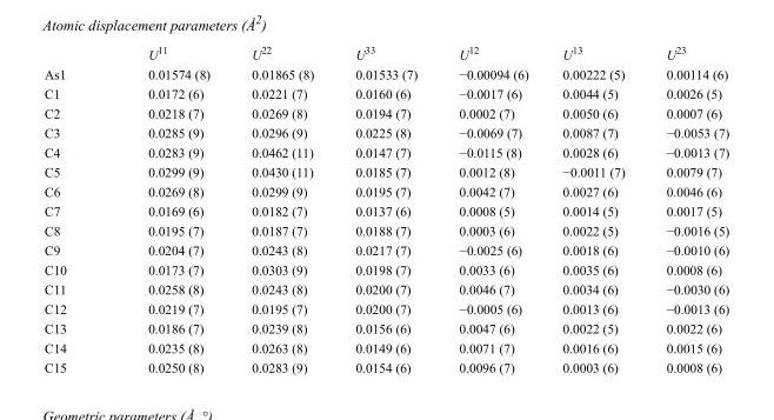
<table><thead><tr><td></td><td>U<sup>11</sup></td><td>U<sup>22</sup></td><td>U<sup>33</sup></td><td>U<sup>12</sup></td><td>U<sup>13</sup></td><td>U<sup>23</sup></td></tr></thead><tbody><tr><td>As1</td><td>0.01574 (8)</td><td>0.01865 (8)</td><td>0.01533 (7)</td><td>−0.00094 (6)</td><td>0.00222 (5)</td><td>0.00114 (6)</td></tr><tr><td>C1</td><td>0.0172 (6)</td><td>0.0221 (7)</td><td>0.0160 (6)</td><td>−0.0017 (6)</td><td>0.0044 (5)</td><td>0.0026 (5)</td></tr><tr><td>C2</td><td>0.0218 (7)</td><td>0.0269 (8)</td><td>0.0194 (7)</td><td>0.0002 (7)</td><td>0.0050 (6)</td><td>0.0007 (6)</td></tr><tr><td>C3</td><td>0.0285 (9)</td><td>0.0296 (9)</td><td>0.0225 (8)</td><td>−0.0069 (7)</td><td>0.0087 (7)</td><td>−0.0053 (7)</td></tr><tr><td>C4</td><td>0.0283 (9)</td><td>0.0462 (11)</td><td>0.0147 (7)</td><td>−0.0115 (8)</td><td>0.0028 (6)</td><td>−0.0013 (7)</td></tr><tr><td>C5</td><td>0.0299 (9)</td><td>0.0430 (11)</td><td>0.0185 (7)</td><td>0.0012 (8)</td><td>−0.0011 (7)</td><td>0.0079 (7)</td></tr><tr><td>C6</td><td>0.0269 (8)</td><td>0.0299 (9)</td><td>0.0195 (7)</td><td>0.0042 (7)</td><td>0.0027 (6)</td><td>0.0046 (6)</td></tr><tr><td>C7</td><td>0.0169 (6)</td><td>0.0182 (7)</td><td>0.0137 (6)</td><td>0.0008 (5)</td><td>0.0014 (5)</td><td>0.0017 (5)</td></tr><tr><td>C8</td><td>0.0195 (7)</td><td>0.0187 (7)</td><td>0.0188 (7)</td><td>0.0003 (6)</td><td>0.0022 (5)</td><td>−0.0016 (5)</td></tr><tr><td>C9</td><td>0.0204 (7)</td><td>0.0243 (8)</td><td>0.0217 (7)</td><td>−0.0025 (6)</td><td>0.0018 (6)</td><td>−0.0010 (6)</td></tr><tr><td>C10</td><td>0.0173 (7)</td><td>0.0303 (9)</td><td>0.0198 (7)</td><td>0.0033 (6)</td><td>0.0035 (6)</td><td>0.0008 (6)</td></tr><tr><td>C11</td><td>0.0258 (8)</td><td>0.0243 (8)</td><td>0.0200 (7)</td><td>0.0046 (7)</td><td>0.0034 (6)</td><td>−0.0030 (6)</td></tr><tr><td>C12</td><td>0.0219 (7)</td><td>0.0195 (7)</td><td>0.0200 (7)</td><td>−0.0005 (6)</td><td>0.0013 (6)</td><td>−0.0013 (6)</td></tr><tr><td>C13</td><td>0.0186 (7)</td><td>0.0239 (8)</td><td>0.0156 (6)</td><td>0.0047 (6)</td><td>0.0022 (5)</td><td>0.0022 (6)</td></tr><tr><td>C14</td><td>0.0235 (8)</td><td>0.0263 (8)</td><td>0.0149 (6)</td><td>0.0071 (7)</td><td>0.0016 (6)</td><td>0.0015 (6)</td></tr><tr><td>C15</td><td>0.0250 (8)</td><td>0.0283 (9)</td><td>0.0154 (6)</td><td>0.0096 (7)</td><td>0.0003 (6)</td><td>0.0008 (6)</td></tr></tbody></table>